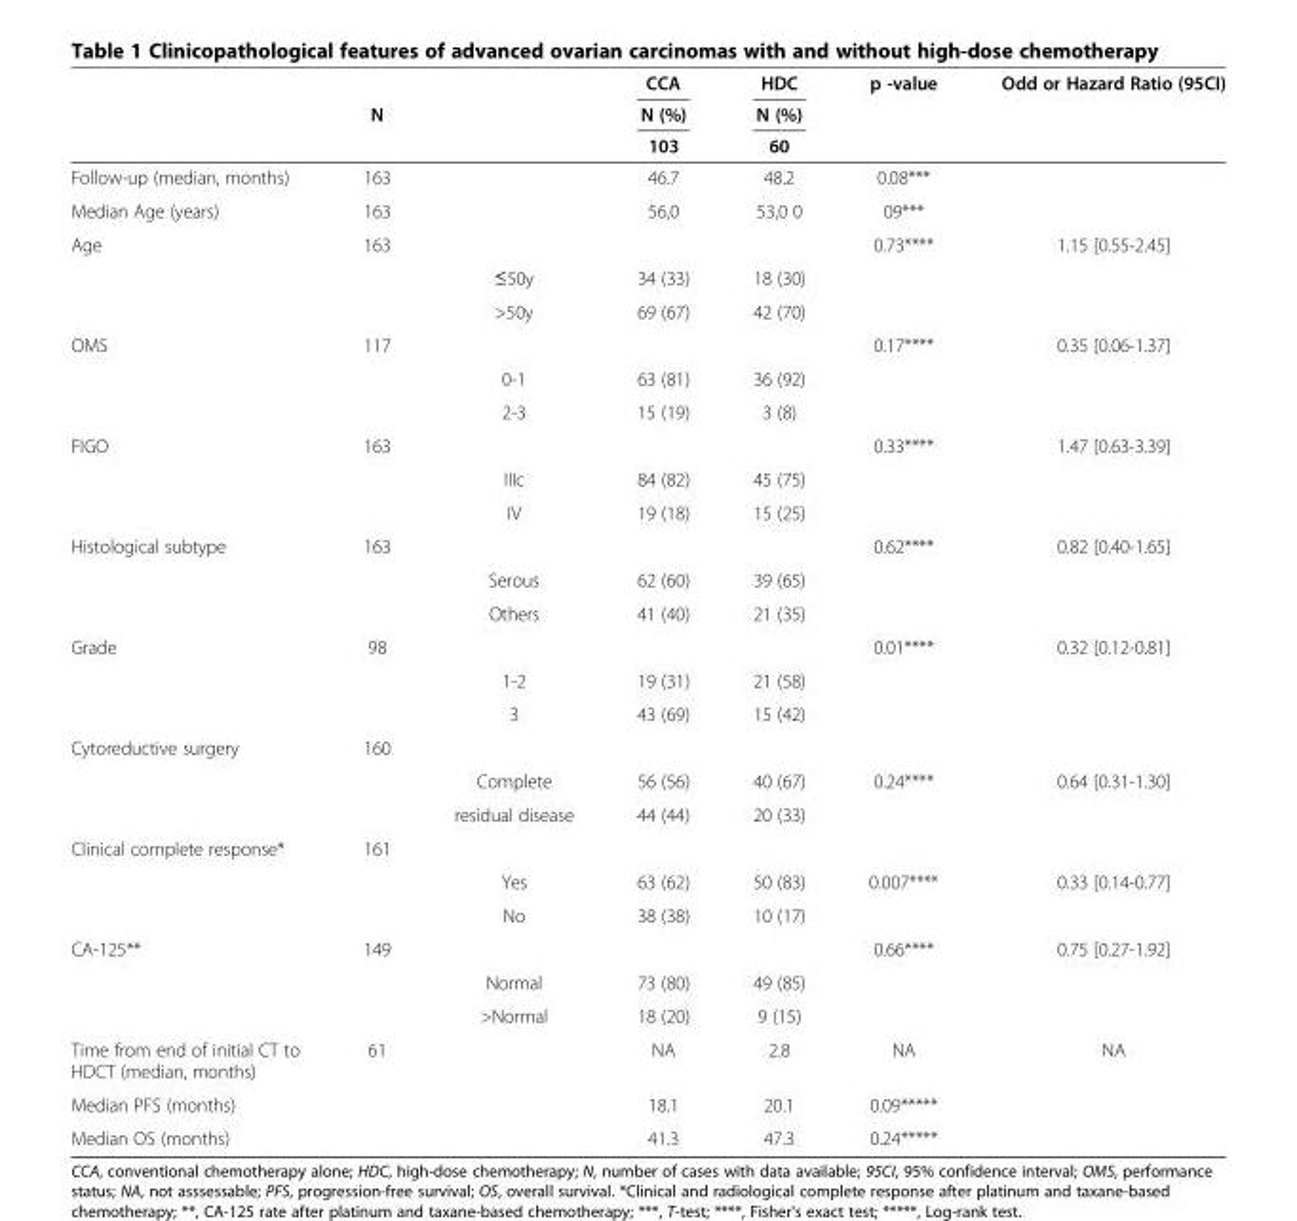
<table><thead><tr><td rowspan="3"></td><td rowspan="3">N</td><td rowspan="3"></td><td rowspan="3">CCA N (%) 103</td><td rowspan="3">HDC N (%) 60</td><td rowspan="3">p -value</td><td rowspan="3">Odd or Hazard Ratio (95CI)</td></tr><tr></tr><tr></tr></thead><tbody><tr><td>Follow-up (median, months)</td><td>163</td><td></td><td>46.7</td><td>48.2</td><td>0.08***</td><td></td></tr><tr><td>Median Age (years)</td><td>163</td><td></td><td>56,0</td><td>53,0 0</td><td>09***</td><td></td></tr><tr><td rowspan="3">Age</td><td>163</td><td></td><td></td><td></td><td>0.73****</td><td>1.15 [0.55-2.45]</td></tr><tr><td></td><td>≤50y</td><td>34 (33)</td><td>18 (30)</td><td></td><td></td></tr><tr><td></td><td>&gt;50y</td><td>69 (67)</td><td>42 (70)</td><td></td><td></td></tr><tr><td rowspan="3">OMS</td><td>117</td><td></td><td></td><td></td><td>0.17****</td><td>0.35 [0.06-1.37]</td></tr><tr><td></td><td>0-1</td><td>63 (81)</td><td>36 (92)</td><td></td><td></td></tr><tr><td></td><td>2-3</td><td>15 (19)</td><td>3 (8)</td><td></td><td></td></tr><tr><td rowspan="3">FIGO</td><td>163</td><td></td><td></td><td></td><td>0.33****</td><td>1.47 [0.63-3.39]</td></tr><tr><td></td><td>IIIc</td><td>84 (82)</td><td>45 (75)</td><td></td><td></td></tr><tr><td></td><td>IV</td><td>19 (18)</td><td>15 (25)</td><td></td><td></td></tr><tr><td rowspan="3">Histological subtype</td><td>163</td><td></td><td></td><td></td><td>0.62****</td><td>0.82 [0.40-1.65]</td></tr><tr><td></td><td>Serous</td><td>62 (60)</td><td>39 (65)</td><td></td><td></td></tr><tr><td></td><td>Others</td><td>41 (40)</td><td>21 (35)</td><td></td><td></td></tr><tr><td rowspan="3">Grade</td><td>98</td><td></td><td></td><td></td><td>0.01****</td><td>0.32 [0.12-0.81]</td></tr><tr><td></td><td>1-2</td><td>19 (31)</td><td>21 (58)</td><td></td><td></td></tr><tr><td></td><td>3</td><td>43 (69)</td><td>15 (42)</td><td></td><td></td></tr><tr><td rowspan="3">Cytoreductive surgery</td><td>160</td><td></td><td></td><td></td><td></td><td></td></tr><tr><td></td><td>Complete</td><td>56 (56)</td><td>40 (67)</td><td>0.24****</td><td>0.64 [0.31-1.30]</td></tr><tr><td></td><td>residual disease</td><td>44 (44)</td><td>20 (33)</td><td></td><td></td></tr><tr><td rowspan="3">Clinical complete response*</td><td>161</td><td></td><td></td><td></td><td></td><td></td></tr><tr><td></td><td>Yes</td><td>63 (62)</td><td>50 (83)</td><td>0.007****</td><td>0.33 [0.14-0.77]</td></tr><tr><td></td><td>No</td><td>38 (38)</td><td>10 (17)</td><td></td><td></td></tr><tr><td rowspan="3">CA-125**</td><td>149</td><td></td><td></td><td></td><td>0.66****</td><td>0.75 [0.27-1.92]</td></tr><tr><td></td><td>Normal</td><td>73 (80)</td><td>49 (85)</td><td></td><td></td></tr><tr><td></td><td>&gt;Normal</td><td>18 (20)</td><td>9 (15)</td><td></td><td></td></tr><tr><td>Time from end of initial CT to HDCT (median, months)</td><td>61</td><td></td><td>NA</td><td>2.8</td><td>NA</td><td>NA</td></tr><tr><td>Median PFS (months)</td><td></td><td></td><td>18.1</td><td>20.1</td><td>0.09*****</td><td></td></tr><tr><td>Median OS (months)</td><td></td><td></td><td>41.3</td><td>47.3</td><td>0.24*****</td><td></td></tr></tbody></table>